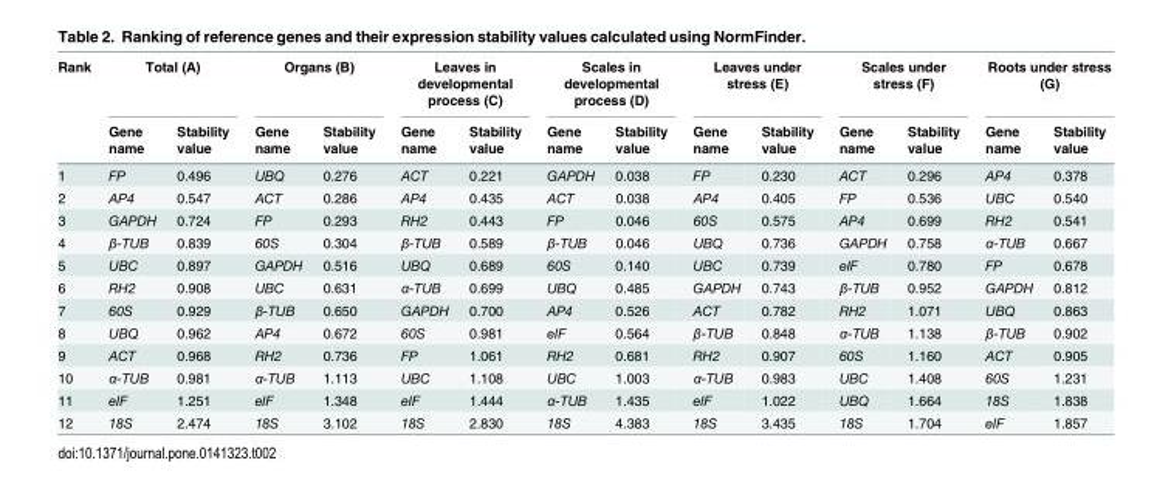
<table><thead><tr><td rowspan="2">Rank</td><td colspan="2">Total (A)</td><td colspan="2">Organs (B)</td><td colspan="2">Leaves in developmental process (C)</td><td colspan="2">Scales in developmental process (D)</td><td colspan="2">Leaves under stress (E)</td><td colspan="2">Scales under stress (F)</td><td colspan="2">Roots under stress (G)</td></tr><tr><td>Gene name</td><td>Stability value</td><td>Gene name</td><td>Stability value</td><td>Gene name</td><td>Stability value</td><td>Gene name</td><td>Stability value</td><td>Gene name</td><td>Stability value</td><td>Gene name</td><td>Stability value</td><td>Gene name</td><td>Stability value</td></tr></thead><tbody><tr><td>1</td><td>FP</td><td>0.496</td><td>UBQ</td><td>0.276</td><td>ACT</td><td>0.221</td><td>GAPDH</td><td>0.038</td><td>FP</td><td>0.230</td><td>ACT</td><td>0.296</td><td>AP4</td><td>0.378</td></tr><tr><td>2</td><td>AP4</td><td>0.547</td><td>ACT</td><td>0.286</td><td>AP4</td><td>0.435</td><td>ACT</td><td>0.038</td><td>AP4</td><td>0.405</td><td>FP</td><td>0.536</td><td>UBC</td><td>0.540</td></tr><tr><td>3</td><td>GAPDH</td><td>0.724</td><td>FP</td><td>0.293</td><td>RH2</td><td>0.443</td><td>FP</td><td>0.046</td><td>60S</td><td>0.575</td><td>AP4</td><td>0.699</td><td>RH2</td><td>0.541</td></tr><tr><td>4</td><td>β-TUB</td><td>0.839</td><td>60S</td><td>0.304</td><td>β-TUB</td><td>0.589</td><td>β-TUB</td><td>0.046</td><td>UBQ</td><td>0.736</td><td>GAPDH</td><td>0.758</td><td>α-TUB</td><td>0.667</td></tr><tr><td>5</td><td>UBC</td><td>0.897</td><td>GAPDH</td><td>0.516</td><td>UBQ</td><td>0.689</td><td>60S</td><td>0.140</td><td>UBC</td><td>0.739</td><td>eIF</td><td>0.780</td><td>FP</td><td>0.678</td></tr><tr><td>6</td><td>RH2</td><td>0.908</td><td>UBC</td><td>0.631</td><td>α-TUB</td><td>0.699</td><td>UBQ</td><td>0.485</td><td>GAPDH</td><td>0.743</td><td>β-TUB</td><td>0.952</td><td>GAPDH</td><td>0.812</td></tr><tr><td>7</td><td>60S</td><td>0.929</td><td>β-TUB</td><td>0.650</td><td>GAPDH</td><td>0.700</td><td>AP4</td><td>0.526</td><td>ACT</td><td>0.782</td><td>RH2</td><td>1.071</td><td>UBQ</td><td>0.863</td></tr><tr><td>8</td><td>UBQ</td><td>0.962</td><td>AP4</td><td>0.672</td><td>60S</td><td>0.981</td><td>eIF</td><td>0.564</td><td>β-TUB</td><td>0.848</td><td>α-TUB</td><td>1.138</td><td>β-TUB</td><td>0.902</td></tr><tr><td>9</td><td>ACT</td><td>0.968</td><td>RH2</td><td>0.736</td><td>FP</td><td>1.061</td><td>RH2</td><td>0.681</td><td>RH2</td><td>0.907</td><td>60S</td><td>1.160</td><td>ACT</td><td>0.905</td></tr><tr><td>10</td><td>α-TUB</td><td>0.981</td><td>α-TUB</td><td>1.113</td><td>UBC</td><td>1.108</td><td>UBC</td><td>1.003</td><td>α-TUB</td><td>0.983</td><td>UBC</td><td>1.408</td><td>60S</td><td>1.231</td></tr><tr><td>11</td><td>eIF</td><td>1.251</td><td>eIF</td><td>1.348</td><td>eIF</td><td>1.444</td><td>α-TUB</td><td>1.435</td><td>eIF</td><td>1.022</td><td>UBQ</td><td>1.664</td><td>18S</td><td>1.838</td></tr><tr><td>12</td><td>18S</td><td>2.474</td><td>18S</td><td>3.102</td><td>18S</td><td>2.830</td><td>18S</td><td>4.383</td><td>18S</td><td>3.435</td><td>18S</td><td>1.704</td><td>eIF</td><td>1.857</td></tr></tbody></table>